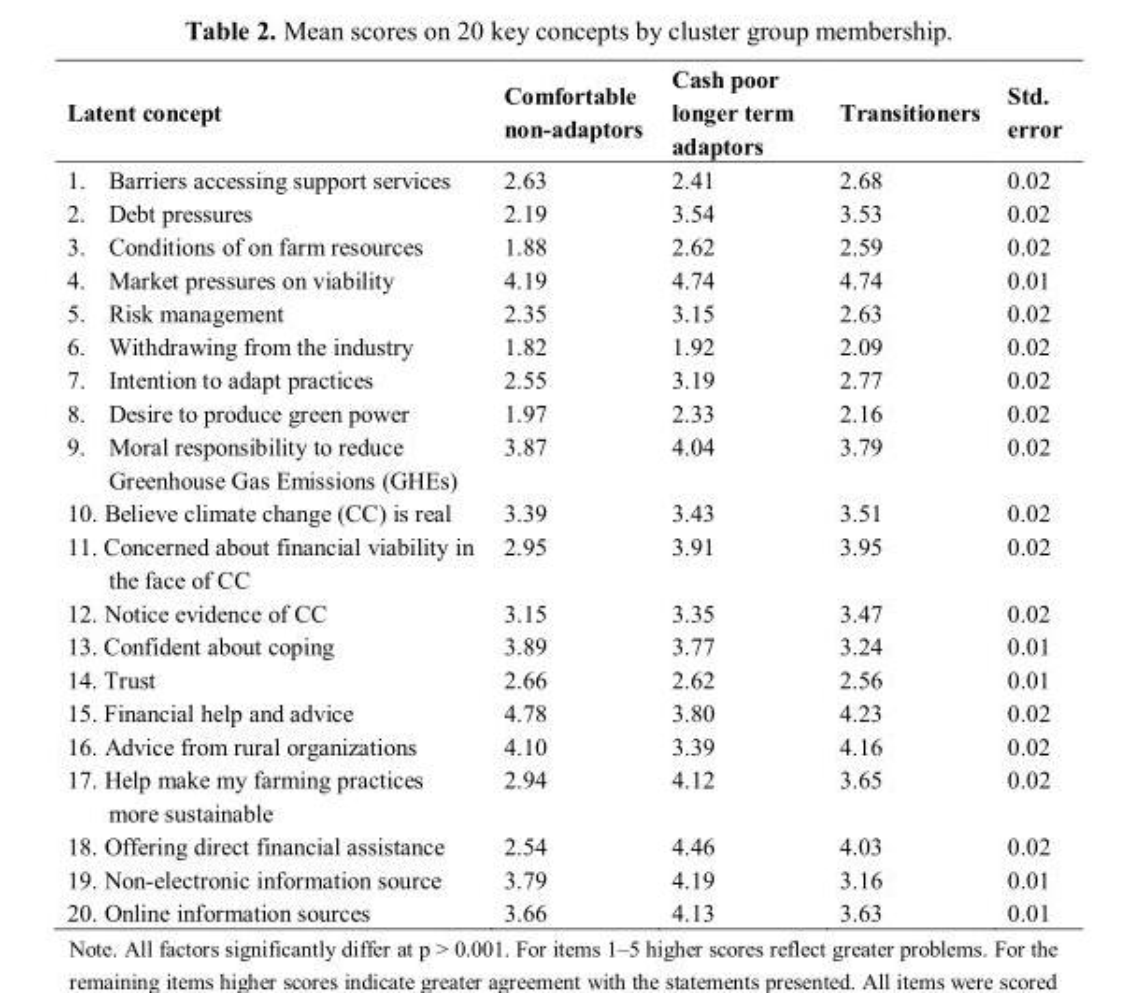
<table><thead><tr><td>Latent concept</td><td>Comfortable non-adaptors</td><td>Cash poor longer term adaptors</td><td>Transitioners</td><td>Std. error</td></tr></thead><tbody><tr><td>1. Barriers accessing support services</td><td>2.63</td><td>2.41</td><td>2.68</td><td>0.02</td></tr><tr><td>2. Debt pressures</td><td>2.19</td><td>3.54</td><td>3.53</td><td>0.02</td></tr><tr><td>3. Conditions of on farm resources</td><td>1.88</td><td>2.62</td><td>2.59</td><td>0.02</td></tr><tr><td>4. Market pressures on viability</td><td>4.19</td><td>4.74</td><td>4.74</td><td>0.01</td></tr><tr><td>5. Risk management</td><td>2.35</td><td>3.15</td><td>2.63</td><td>0.02</td></tr><tr><td>6. Withdrawing from the industry</td><td>1.82</td><td>1.92</td><td>2.09</td><td>0.02</td></tr><tr><td>7. Intention to adapt practices</td><td>2.55</td><td>3.19</td><td>2.77</td><td>0.02</td></tr><tr><td>8. Desire to produce green power</td><td>1.97</td><td>2.33</td><td>2.16</td><td>0.02</td></tr><tr><td>9. Moral responsibility to reduce Greenhouse Gas Emissions (GHEs)</td><td>3.87</td><td>4.04</td><td>3.79</td><td>0.02</td></tr><tr><td>10. Believe climate change (CC) is real</td><td>3.39</td><td>3.43</td><td>3.51</td><td>0.02</td></tr><tr><td>11. Concerned about financial viability in the face of CC</td><td>2.95</td><td>3.91</td><td>3.95</td><td>0.02</td></tr><tr><td>12. Notice evidence of CC</td><td>3.15</td><td>3.35</td><td>3.47</td><td>0.02</td></tr><tr><td>13. Confident about coping</td><td>3.89</td><td>3.77</td><td>3.24</td><td>0.01</td></tr><tr><td>14. Trust</td><td>2.66</td><td>2.62</td><td>2.56</td><td>0.01</td></tr><tr><td>15. Financial help and advice</td><td>4.78</td><td>3.80</td><td>4.23</td><td>0.02</td></tr><tr><td>16. Advice from rural organizations</td><td>4.10</td><td>3.39</td><td>4.16</td><td>0.02</td></tr><tr><td>17. Help make my farming practices more sustainable</td><td>2.94</td><td>4.12</td><td>3.65</td><td>0.02</td></tr><tr><td>18. Offering direct financial assistance</td><td>2.54</td><td>4.46</td><td>4.03</td><td>0.02</td></tr><tr><td>19. Non-electronic information source</td><td>3.79</td><td>4.19</td><td>3.16</td><td>0.01</td></tr><tr><td>20. Online information sources</td><td>3.66</td><td>4.13</td><td>3.63</td><td>0.01</td></tr></tbody></table>